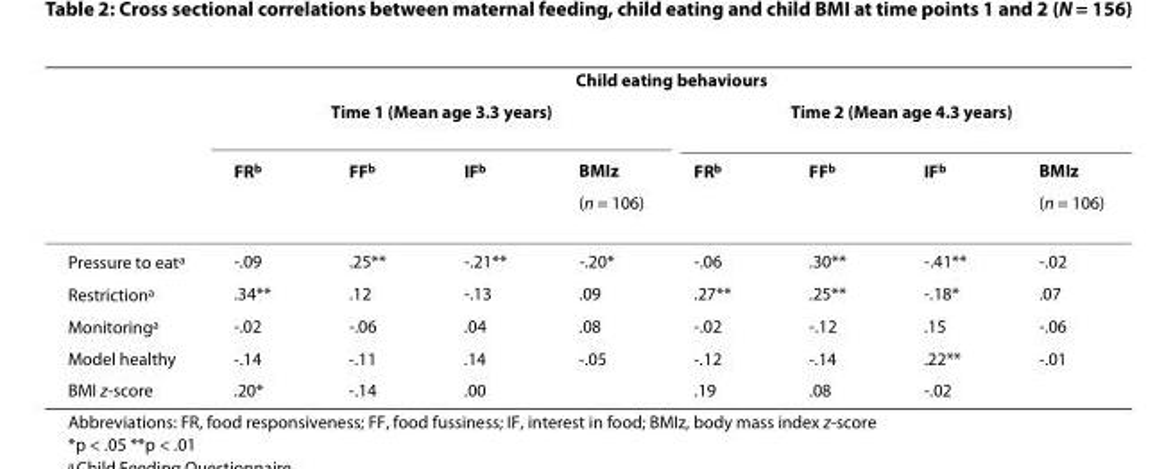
<table><thead><tr><td rowspan="4"></td><td colspan="8">Child eating behaviours</td></tr><tr><td colspan="4">Time 1 (Mean age 3.3 years)</td><td colspan="4">Time 2 (Mean age 4.3 years)</td></tr><tr><td rowspan="2">FR<sup>b</sup></td><td rowspan="2">FF<sup>b</sup></td><td rowspan="2">IF<sup>b</sup></td><td rowspan="2">BMIz (n = 106)</td><td rowspan="2">FR<sup>b</sup></td><td rowspan="2">FF<sup>b</sup></td><td rowspan="2">IF<sup>b</sup></td><td rowspan="2">BMIz (n = 106)</td></tr><tr></tr></thead><tbody><tr><td>Pressure to eat<sup>a</sup></td><td>-.09</td><td>.25**</td><td>-.21**</td><td>-.20*</td><td>-.06</td><td>.30**</td><td>-.41**</td><td>-.02</td></tr><tr><td>Restriction<sup>a</sup></td><td>.34**</td><td>.12</td><td>-.13</td><td>.09</td><td>.27**</td><td>.25**</td><td>-.18*</td><td>.07</td></tr><tr><td>Monitoring<sup>a</sup></td><td>-.02</td><td>-.06</td><td>.04</td><td>.08</td><td>-.02</td><td>-.12</td><td>.15</td><td>-.06</td></tr><tr><td>Model healthy</td><td>-.14</td><td>-.11</td><td>.14</td><td>-.05</td><td>-.12</td><td>-.14</td><td>.22**</td><td>-.01</td></tr><tr><td>BMI z-score</td><td>.20*</td><td>-.14</td><td>.00</td><td></td><td>.19</td><td>.08</td><td>-.02</td><td></td></tr></tbody></table>